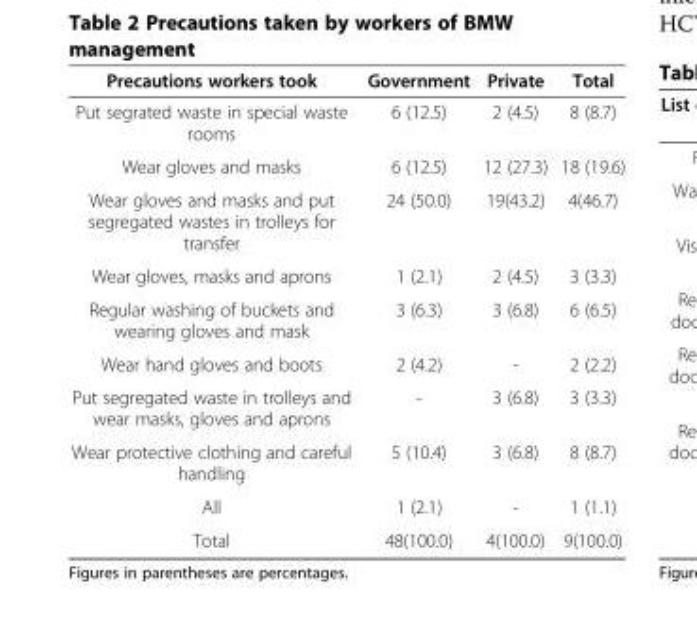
<table><thead><tr><td>Precautions workers took</td><td>Government</td><td>Private</td><td>Total</td></tr></thead><tbody><tr><td>Put segrated waste in special waste rooms</td><td>6 (12.5)</td><td>2 (4.5)</td><td>8 (8.7)</td></tr><tr><td>Wear gloves and masks</td><td>6 (12.5)</td><td>12 (27.3)</td><td>18 (19.6)</td></tr><tr><td>Wear gloves and masks and put segregated wastes in trolleys for transfer</td><td>24 (50.0)</td><td>19(43.2)</td><td>4(46.7)</td></tr><tr><td>Wear gloves, masks and aprons</td><td>1 (2.1)</td><td>2 (4.5)</td><td>3 (3.3)</td></tr><tr><td>Regular washing of buckets and wearing gloves and mask</td><td>3 (6.3)</td><td>3 (6.8)</td><td>6 (6.5)</td></tr><tr><td>Wear hand gloves and boots</td><td>2 (4.2)</td><td>-</td><td>2 (2.2)</td></tr><tr><td>Put segregated waste in trolleys and wear masks, gloves and aprons</td><td>-</td><td>3 (6.8)</td><td>3 (3.3)</td></tr><tr><td>Wear protective clothing and careful handling</td><td>5 (10.4)</td><td>3 (6.8)</td><td>8 (8.7)</td></tr><tr><td>All</td><td>1 (2.1)</td><td>-</td><td>1 (1.1)</td></tr><tr><td>Total</td><td>48(100.0)</td><td>4(100.0)</td><td>9(100.0)</td></tr></tbody></table>